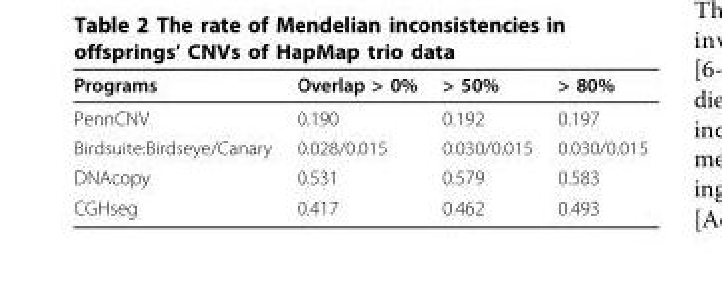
<table><thead><tr><td>Programs</td><td>Overlap &gt; 0%</td><td>&gt; 50%</td><td>&gt; 80%</td></tr></thead><tbody><tr><td>PennCNV</td><td>0.190</td><td>0.192</td><td>0.197</td></tr><tr><td>Birdsuite:Birdseye/Canary</td><td>0.028/0.015</td><td>0.030/0.015</td><td>0.030/0.015</td></tr><tr><td>DNAcopy</td><td>0.531</td><td>0.579</td><td>0.583</td></tr><tr><td>CGHseg</td><td>0.417</td><td>0.462</td><td>0.493</td></tr></tbody></table>